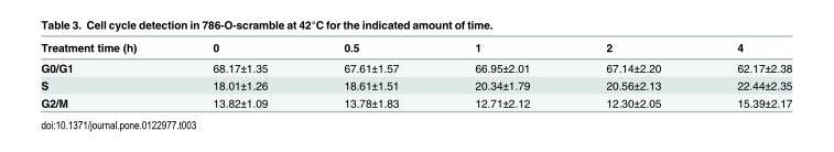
<table><thead><tr><td>Treatment time (h)</td><td>0</td><td>0.5</td><td>1</td><td>2</td><td>4</td></tr></thead><tbody><tr><td>G0/G1</td><td>68.17±1.35</td><td>67.61±1.57</td><td>66.95±2.01</td><td>67.14±2.20</td><td>62.17±2.38</td></tr><tr><td>S</td><td>18.01±1.26</td><td>18.61±1.51</td><td>20.34±1.79</td><td>20.56±2.13</td><td>22.44±2.35</td></tr><tr><td>G2/M</td><td>13.82±1.09</td><td>13.78±1.83</td><td>12.71±2.12</td><td>12.30±2.05</td><td>15.39±2.17</td></tr></tbody></table>